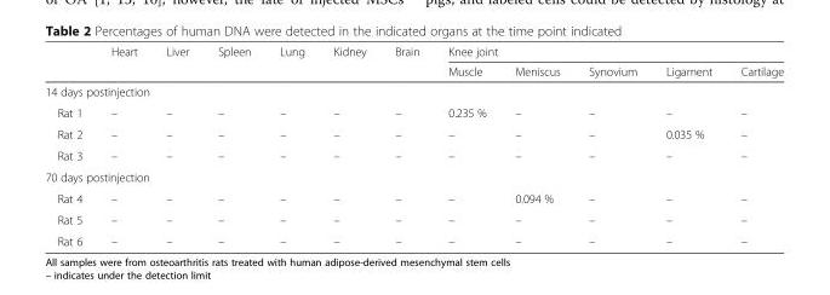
<table><thead><tr><td rowspan="2"></td><td rowspan="2">Heart</td><td rowspan="2">Liver</td><td rowspan="2">Spleen</td><td rowspan="2">Lung</td><td rowspan="2">Kidney</td><td rowspan="2">Brain</td><td colspan="5">Knee joint</td></tr><tr><td>Muscle</td><td>Meniscus</td><td>Synovium</td><td>Ligament</td><td>Cartilage</td></tr></thead><tbody><tr><td colspan="12">14 days postinjection</td></tr><tr><td>Rat 1</td><td>–</td><td>–</td><td>–</td><td>–</td><td>–</td><td>–</td><td>0.235 %</td><td>–</td><td>–</td><td>–</td><td>–</td></tr><tr><td>Rat 2</td><td>–</td><td>–</td><td>–</td><td>–</td><td>–</td><td>–</td><td>–</td><td>–</td><td>–</td><td>0.035 %</td><td>–</td></tr><tr><td>Rat 3</td><td>–</td><td>–</td><td>–</td><td>–</td><td>–</td><td>–</td><td>–</td><td>–</td><td>–</td><td>–</td><td>–</td></tr><tr><td colspan="12">70 days postinjection</td></tr><tr><td>Rat 4</td><td>–</td><td>–</td><td>–</td><td>–</td><td>–</td><td>–</td><td>–</td><td>0.094 %</td><td>–</td><td>–</td><td>–</td></tr><tr><td>Rat 5</td><td>–</td><td>–</td><td>–</td><td>–</td><td>–</td><td>–</td><td>–</td><td>–</td><td>–</td><td>–</td><td>–</td></tr><tr><td>Rat 6</td><td>–</td><td>–</td><td>–</td><td>–</td><td>–</td><td>–</td><td>–</td><td>–</td><td>–</td><td>–</td><td>–</td></tr></tbody></table>